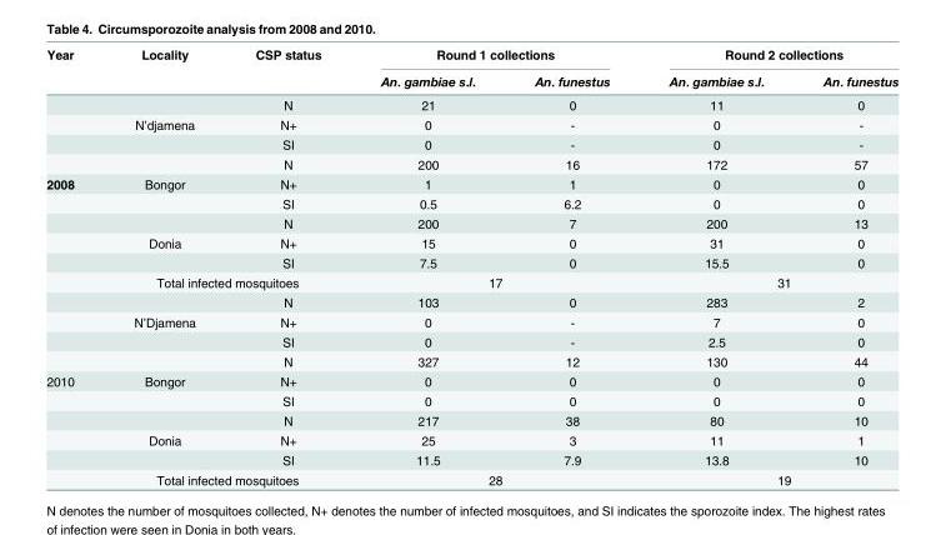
<table><thead><tr><td rowspan="2">Year</td><td rowspan="2">Locality</td><td rowspan="2">CSP status</td><td colspan="2">Round 1 collections</td><td colspan="2">Round 2 collections</td></tr><tr><td>An. gambiae s.l.</td><td>An. funestus</td><td>An. gambiae s.l.</td><td>An. funestus</td></tr></thead><tbody><tr><td></td><td></td><td>N</td><td>21</td><td>0</td><td>11</td><td>0</td></tr><tr><td></td><td>N’djamena</td><td>N+</td><td>0</td><td>-</td><td>0</td><td>-</td></tr><tr><td></td><td></td><td>SI</td><td>0</td><td>-</td><td>0</td><td>-</td></tr><tr><td></td><td></td><td>N</td><td>200</td><td>16</td><td>172</td><td>57</td></tr><tr><td rowspan="10">2008</td><td>Bongor</td><td>N+</td><td>1</td><td>1</td><td>0</td><td>0</td></tr><tr><td></td><td>SI</td><td>0.5</td><td>6.2</td><td>0</td><td>0</td></tr><tr><td></td><td>N</td><td>200</td><td>7</td><td>200</td><td>13</td></tr><tr><td>Donia</td><td>N+</td><td>15</td><td>0</td><td>31</td><td>0</td></tr><tr><td></td><td>SI</td><td>7.5</td><td>0</td><td>15.5</td><td>0</td></tr><tr><td colspan="2">Total infected mosquitoes</td><td colspan="2">17</td><td colspan="2">31</td></tr><tr><td></td><td>N</td><td>103</td><td>0</td><td>283</td><td>2</td></tr><tr><td>N’Djamena</td><td>N+</td><td>0</td><td>-</td><td>7</td><td>0</td></tr><tr><td></td><td>SI</td><td>0</td><td>-</td><td>2.5</td><td>0</td></tr><tr><td></td><td>N</td><td>327</td><td>12</td><td>130</td><td>44</td></tr><tr><td rowspan="6">2010</td><td>Bongor</td><td>N+</td><td>0</td><td>0</td><td>0</td><td>0</td></tr><tr><td></td><td>SI</td><td>0</td><td>0</td><td>0</td><td>0</td></tr><tr><td></td><td>N</td><td>217</td><td>38</td><td>80</td><td>10</td></tr><tr><td>Donia</td><td>N+</td><td>25</td><td>3</td><td>11</td><td>1</td></tr><tr><td></td><td>SI</td><td>11.5</td><td>7.9</td><td>13.8</td><td>10</td></tr><tr><td colspan="2">Total infected mosquitoes</td><td colspan="2">28</td><td colspan="2">19</td></tr></tbody></table>